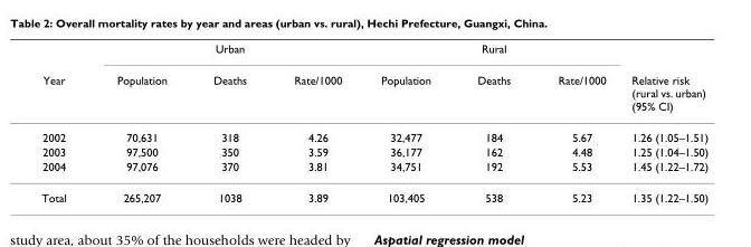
<table><thead><tr><td rowspan="2">Year</td><td colspan="3">Urban</td><td colspan="3">Rural</td><td rowspan="2">Relative risk (rural vs. urban) (95% CI)</td></tr><tr><td>Population</td><td>Deaths</td><td>Rate/1000</td><td>Population</td><td>Deaths</td><td>Rate/1000</td></tr></thead><tbody><tr><td>2002</td><td>70,631</td><td>318</td><td>4.26</td><td>32,477</td><td>184</td><td>5.67</td><td>1.26 (1.05–1.51)</td></tr><tr><td>2003</td><td>97,500</td><td>350</td><td>3.59</td><td>36,177</td><td>162</td><td>4.48</td><td>1.25 (1.04–1.50)</td></tr><tr><td>2004</td><td>97,076</td><td>370</td><td>3.81</td><td>34,751</td><td>192</td><td>5.53</td><td>1.45 (1.22–1.72)</td></tr><tr><td>Total</td><td>265,207</td><td>1038</td><td>3.89</td><td>103,405</td><td>538</td><td>5.23</td><td>1.35 (1.22–1.50)</td></tr></tbody></table>